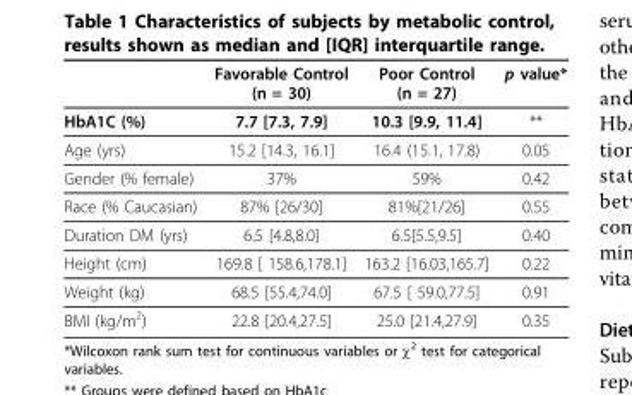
<table><thead><tr><td></td><td>Favorable Control (n = 30)</td><td>Poor Control (n = 27)</td><td>p value*</td></tr></thead><tbody><tr><td>HbA1C (%)</td><td>7.7 [7.3, 7.9]</td><td>10.3 [9.9, 11.4]</td><td>**</td></tr><tr><td>Age (yrs)</td><td>15.2 [14.3, 16.1]</td><td>16.4 (15.1, 17.8)</td><td>0.05</td></tr><tr><td>Gender (% female)</td><td>37%</td><td>59%</td><td>0.42</td></tr><tr><td>Race (% Caucasian)</td><td>87% [26/30]</td><td>81%[21/26]</td><td>0.55</td></tr><tr><td>Duration DM (yrs)</td><td>6.5 [4.8,8.0]</td><td>6.5[5.5,9.5]</td><td>0.40</td></tr><tr><td>Height (cm)</td><td>169.8 [ 158.6,178.1]</td><td>163.2 [16.03,165.7]</td><td>0.22</td></tr><tr><td>Weight (kg)</td><td>68.5 [55.4,74.0]</td><td>67.5 [ 59.0,77.5]</td><td>0.91</td></tr><tr><td>BMI (kg/m<sup>2</sup>)</td><td>22.8 [20.4,27.5]</td><td>25.0 [21.4,27.9]</td><td>0.35</td></tr></tbody></table>